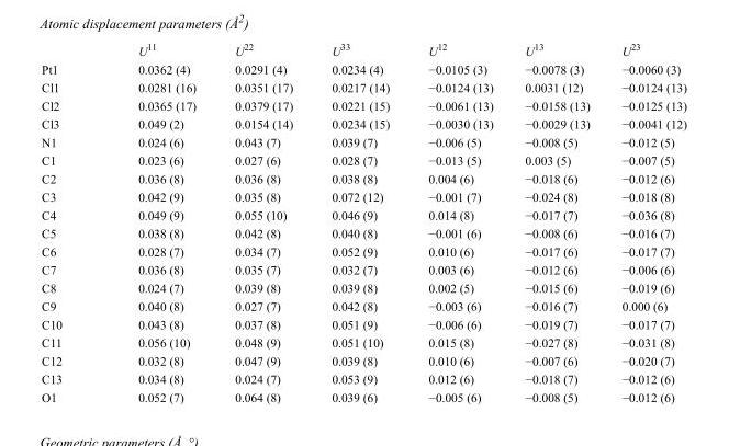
<table><thead><tr><td></td><td>U<sup>11</sup></td><td>U<sup>22</sup></td><td>U<sup>33</sup></td><td>U<sup>12</sup></td><td>U<sup>13</sup></td><td>U<sup>23</sup></td></tr></thead><tbody><tr><td>Pt1</td><td>0.0362 (4)</td><td>0.0291 (4)</td><td>0.0234 (4)</td><td>−0.0105 (3)</td><td>−0.0078 (3)</td><td>−0.0060 (3)</td></tr><tr><td>Cl1</td><td>0.0281 (16)</td><td>0.0351 (17)</td><td>0.0217 (14)</td><td>−0.0124 (13)</td><td>0.0031 (12)</td><td>−0.0124 (13)</td></tr><tr><td>Cl2</td><td>0.0365 (17)</td><td>0.0379 (17)</td><td>0.0221 (15)</td><td>−0.0061 (13)</td><td>−0.0158 (13)</td><td>−0.0125 (13)</td></tr><tr><td>Cl3</td><td>0.049 (2)</td><td>0.0154 (14)</td><td>0.0234 (15)</td><td>−0.0030 (13)</td><td>−0.0029 (13)</td><td>−0.0041 (12)</td></tr><tr><td>N1</td><td>0.024 (6)</td><td>0.043 (7)</td><td>0.039 (7)</td><td>−0.006 (5)</td><td>−0.008 (5)</td><td>−0.012 (5)</td></tr><tr><td>C1</td><td>0.023 (6)</td><td>0.027 (6)</td><td>0.028 (7)</td><td>−0.013 (5)</td><td>0.003 (5)</td><td>−0.007 (5)</td></tr><tr><td>C2</td><td>0.036 (8)</td><td>0.036 (8)</td><td>0.038 (8)</td><td>0.004 (6)</td><td>−0.018 (6)</td><td>−0.012 (6)</td></tr><tr><td>C3</td><td>0.042 (9)</td><td>0.035 (8)</td><td>0.072 (12)</td><td>−0.001 (7)</td><td>−0.024 (8)</td><td>−0.018 (8)</td></tr><tr><td>C4</td><td>0.049 (9)</td><td>0.055 (10)</td><td>0.046 (9)</td><td>0.014 (8)</td><td>−0.017 (7)</td><td>−0.036 (8)</td></tr><tr><td>C5</td><td>0.038 (8)</td><td>0.042 (8)</td><td>0.040 (8)</td><td>−0.001 (6)</td><td>−0.008 (6)</td><td>−0.016 (7)</td></tr><tr><td>C6</td><td>0.028 (7)</td><td>0.034 (7)</td><td>0.052 (9)</td><td>0.010 (6)</td><td>−0.017 (6)</td><td>−0.017 (7)</td></tr><tr><td>C7</td><td>0.036 (8)</td><td>0.035 (7)</td><td>0.032 (7)</td><td>0.003 (6)</td><td>−0.012 (6)</td><td>−0.006 (6)</td></tr><tr><td>C8</td><td>0.024 (7)</td><td>0.039 (8)</td><td>0.039 (8)</td><td>0.002 (5)</td><td>−0.015 (6)</td><td>−0.019 (6)</td></tr><tr><td>C9</td><td>0.040 (8)</td><td>0.027 (7)</td><td>0.042 (8)</td><td>−0.003 (6)</td><td>−0.016 (7)</td><td>0.000 (6)</td></tr><tr><td>C10</td><td>0.043 (8)</td><td>0.037 (8)</td><td>0.051 (9)</td><td>−0.006 (6)</td><td>−0.019 (7)</td><td>−0.017 (7)</td></tr><tr><td>C11</td><td>0.056 (10)</td><td>0.048 (9)</td><td>0.051 (10)</td><td>0.015 (8)</td><td>−0.027 (8)</td><td>−0.031 (8)</td></tr><tr><td>C12</td><td>0.032 (8)</td><td>0.047 (9)</td><td>0.039 (8)</td><td>0.010 (6)</td><td>−0.007 (6)</td><td>−0.020 (7)</td></tr><tr><td>C13</td><td>0.034 (8)</td><td>0.024 (7)</td><td>0.053 (9)</td><td>0.012 (6)</td><td>−0.018 (7)</td><td>−0.012 (6)</td></tr><tr><td>O1</td><td>0.052 (7)</td><td>0.064 (8)</td><td>0.039 (6)</td><td>−0.005 (6)</td><td>−0.008 (5)</td><td>−0.012 (6)</td></tr></tbody></table>